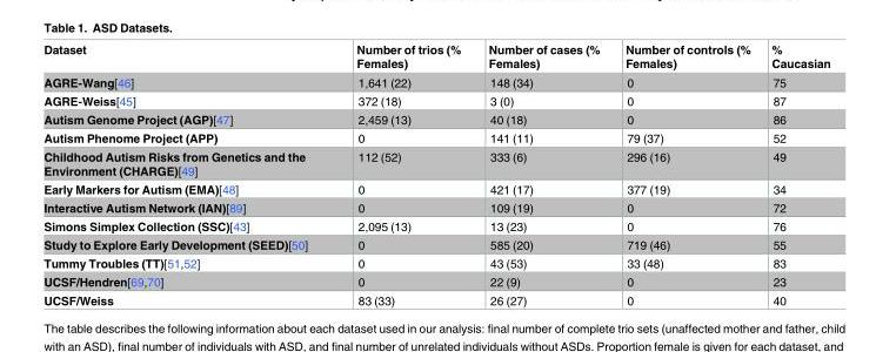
<table><thead><tr><td>Dataset</td><td>Number of trios (% Females)</td><td>Number of cases (% Females)</td><td>Number of controls (% Females)</td><td>% Caucasian</td></tr></thead><tbody><tr><td>AGRE-Wang[46]</td><td>1,641 (22)</td><td>148 (34)</td><td>0</td><td>75</td></tr><tr><td>AGRE-Weiss[45]</td><td>372 (18)</td><td>3 (0)</td><td>0</td><td>87</td></tr><tr><td>Autism Genome Project (AGP)[47]</td><td>2,459 (13)</td><td>40 (18)</td><td>0</td><td>86</td></tr><tr><td>Autism Phenome Project (APP)</td><td>0</td><td>141 (11)</td><td>79 (37)</td><td>52</td></tr><tr><td>Childhood Autism Risks from Genetics and the Environment (CHARGE)[49]</td><td>112 (52)</td><td>333 (6)</td><td>296 (16)</td><td>49</td></tr><tr><td>Early Markers for Autism (EMA)[48]</td><td>0</td><td>421 (17)</td><td>377 (19)</td><td>34</td></tr><tr><td>Interactive Autism Network (IAN)[89]</td><td>0</td><td>109 (19)</td><td>0</td><td>72</td></tr><tr><td>Simons Simplex Collection (SSC)[43]</td><td>2,095 (13)</td><td>13 (23)</td><td>0</td><td>76</td></tr><tr><td>Study to Explore Early Development (SEED)[50]</td><td>0</td><td>585 (20)</td><td>719 (46)</td><td>55</td></tr><tr><td>Tummy Troubles (TT)[51,52]</td><td>0</td><td>43 (53)</td><td>33 (48)</td><td>83</td></tr><tr><td>UCSF/Hendren[69,70]</td><td>0</td><td>22 (9)</td><td>0</td><td>23</td></tr><tr><td>UCSF/Weiss</td><td>83 (33)</td><td>26 (27)</td><td>0</td><td>40</td></tr></tbody></table>